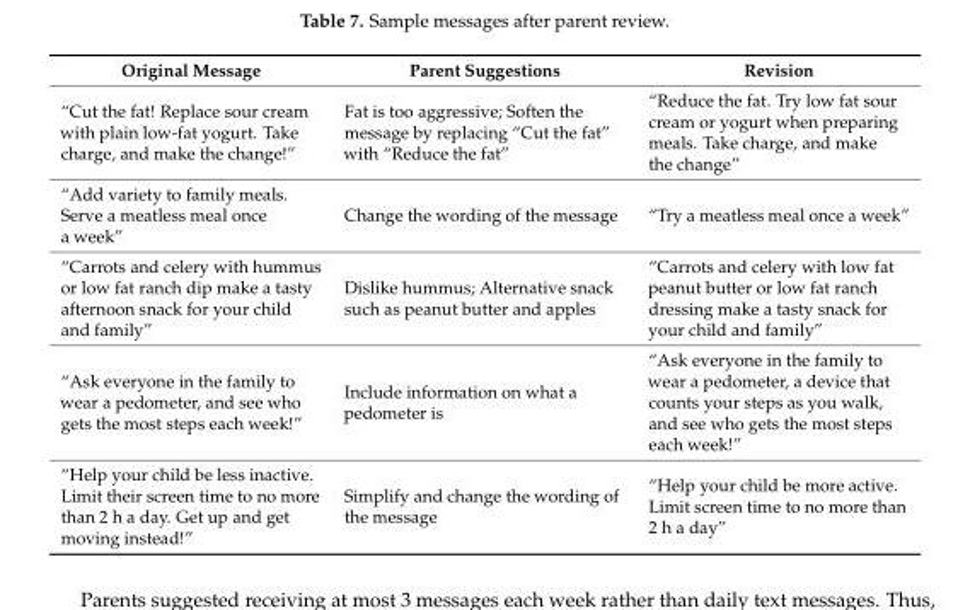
<table><thead><tr><td>Original Message</td><td>Parent Suggestions</td><td>Revision</td></tr></thead><tbody><tr><td>“Cut the fat! Replace sour cream with plain low-fat yogurt. Take charge, and make the change!”</td><td>Fat is too aggressive; Soften the message by replacing “Cut the fat” with “Reduce the fat”</td><td>“Reduce the fat. Try low fat sour cream or yogurt when preparing meals. Take charge, and make the change”</td></tr><tr><td>“Add variety to family meals. Serve a meatless meal once a week”</td><td>Change the wording of the message</td><td>“Try a meatless meal once a week”</td></tr><tr><td>“Carrots and celery with hummus or low fat ranch dip make a tasty afternoon snack for your child and family”</td><td>Dislike hummus; Alternative snack such as peanut butter and apples</td><td>“Carrots and celery with low fat peanut butter or low fat ranch dressing make a tasty snack for your child and family”</td></tr><tr><td>“Ask everyone in the family to wear a pedometer, and see who gets the most steps each week!”</td><td>Include information on what a pedometer is</td><td>“Ask everyone in the family to wear a pedometer, a device that counts your steps as you walk, and see who gets the most steps each week!”</td></tr><tr><td>“Help your child be less inactive. Limit their screen time to no more than 2 h a day. Get up and get moving instead!”</td><td>Simplify and change the wording of the message</td><td>“Help your child be more active. Limit screen time to no more than 2 h a day”</td></tr></tbody></table>